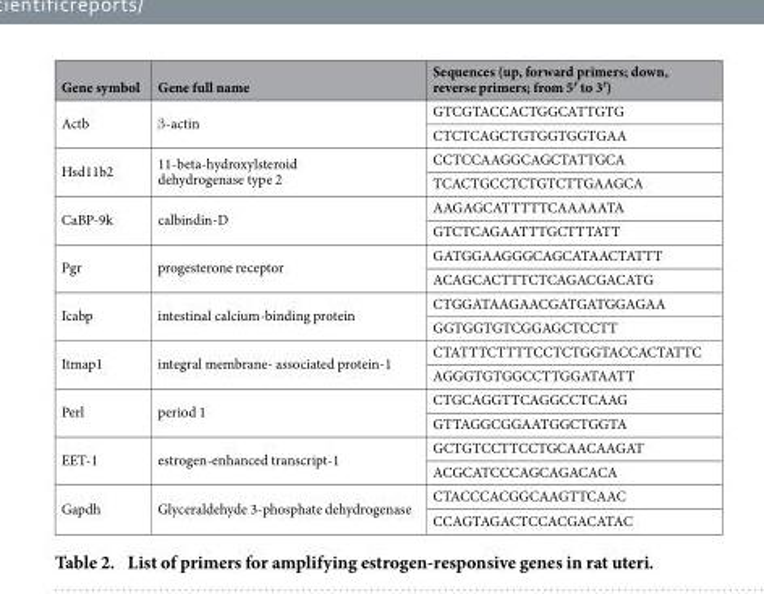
<table><thead><tr><td>Gene symbol</td><td>Gene full name</td><td>Sequences (up, forward primers; down, reverse primers; from 5′ to 3′)</td></tr></thead><tbody><tr><td rowspan="2">Actb</td><td rowspan="2">β -actin</td><td>GTCGTACCACTGGCATTGTG</td></tr><tr><td>CTCTCAGCTGTGGTGGTGAA</td></tr><tr><td rowspan="2">Hsd11b2</td><td rowspan="2">11-beta-hydroxylsteroid dehydrogenase type 2</td><td>CCTCCAAGGCAGCTATTGCA</td></tr><tr><td>TCACTGCCTCTGTCTTGAAGCA</td></tr><tr><td rowspan="2">CaBP-9k</td><td rowspan="2">calbindin-D</td><td>AAGAGCATTTTTCAAAAATA</td></tr><tr><td>GTCTCAGAATTTGCTTTATT</td></tr><tr><td rowspan="2">Pgr</td><td rowspan="2">progesterone receptor</td><td>GATGGAAGGGCAGCATAACTATTT</td></tr><tr><td>ACAGCACTTTCTCAGACGACATG</td></tr><tr><td rowspan="2">Icabp</td><td rowspan="2">intestinal calcium-binding protein</td><td>CTGGATAAGAACGATGATGGAGAA</td></tr><tr><td>GGTGGTGTCGGAGCTCCTT</td></tr><tr><td rowspan="2">Itmap1</td><td rowspan="2">integral membrane- associated protein-1</td><td>CTATTTCTTTTCCTCTGGTACCACTATTC</td></tr><tr><td>AGGGTGTGGCCTTGGATAATT</td></tr><tr><td rowspan="2">Perl</td><td rowspan="2">period 1</td><td>CTGCAGGTTCAGGCCTCAAG</td></tr><tr><td>GTTAGGCGGAATGGCTGGTA</td></tr><tr><td rowspan="2">EET-1</td><td rowspan="2">estrogen-enhanced transcript-1</td><td>GCTGTCCTTCCTGCAACAAGAT</td></tr><tr><td>ACGCATCCCAGCAGACACA</td></tr><tr><td rowspan="2">Gapdh</td><td rowspan="2">Glyceraldehyde 3-phosphate dehydrogenase</td><td>CTACCCACGGCAAGTTCAAC</td></tr><tr><td>CCAGTAGACTCCACGACATAC</td></tr></tbody></table>